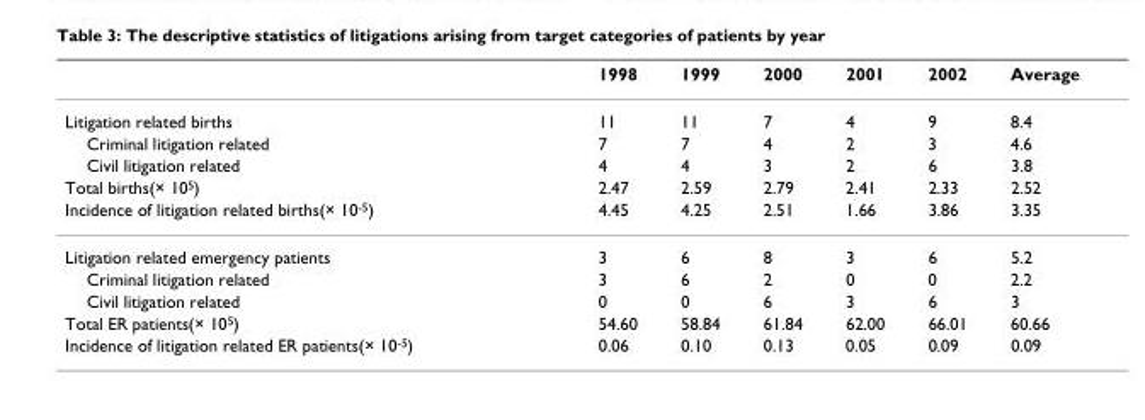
<table><thead><tr><td></td><td>1998</td><td>1999</td><td>2000</td><td>2001</td><td>2002</td><td>Average</td></tr></thead><tbody><tr><td>Litigation related births</td><td>11</td><td>11</td><td>7</td><td>4</td><td>9</td><td>8.4</td></tr><tr><td>Criminal litigation related</td><td>7</td><td>7</td><td>4</td><td>2</td><td>3</td><td>4.6</td></tr><tr><td>Civil litigation related</td><td>4</td><td>4</td><td>3</td><td>2</td><td>6</td><td>3.8</td></tr><tr><td>Total births(× 10<sup>5</sup>)</td><td>2.47</td><td>2.59</td><td>2.79</td><td>2.41</td><td>2.33</td><td>2.52</td></tr><tr><td>Incidence of litigation related births(× 10<sup>-5</sup>)</td><td>4.45</td><td>4.25</td><td>2.51</td><td>1.66</td><td>3.86</td><td>3.35</td></tr><tr><td>Litigation related emergency patients</td><td>3</td><td>6</td><td>8</td><td>3</td><td>6</td><td>5.2</td></tr><tr><td>Criminal litigation related</td><td>3</td><td>6</td><td>2</td><td>0</td><td>0</td><td>2.2</td></tr><tr><td>Civil litigation related</td><td>0</td><td>0</td><td>6</td><td>3</td><td>6</td><td>3</td></tr><tr><td>Total ER patients(× 10<sup>5</sup>)</td><td>54.60</td><td>58.84</td><td>61.84</td><td>62.00</td><td>66.01</td><td>60.66</td></tr><tr><td>Incidence of litigation related ER patients(× 10<sup>-5</sup>)</td><td>0.06</td><td>0.10</td><td>0.13</td><td>0.05</td><td>0.09</td><td>0.09</td></tr></tbody></table>